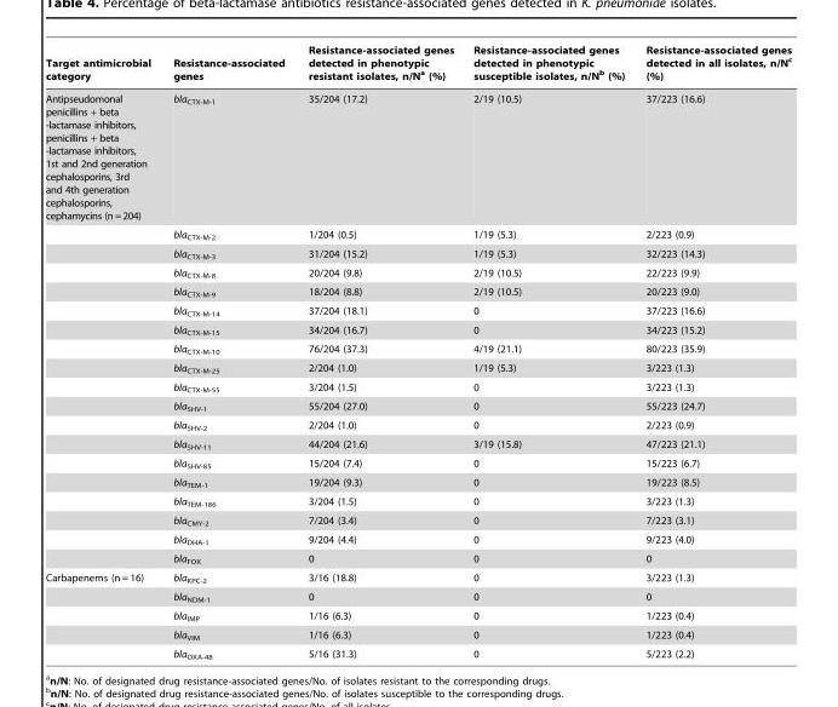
<table><thead><tr><td>Target antimicrobial category</td><td>Resistance-associated genes</td><td>Resistance-associated genes detected in phenotypic resistant isolates, n/N<sup>a</sup> (%)</td><td>Resistance-associated genes detected in phenotypic susceptible isolates, n/N<sup>b</sup> (%)</td><td>Resistance-associated genes detected in all isolates, n/N<sup>c</sup> (%)</td></tr></thead><tbody><tr><td rowspan="19">Antipseudomonal penicillins + beta -lactamase inhibitors, penicillins + beta -lactamase inhibitors, 1st and 2nd generation cephalosporins, 3rd and 4th generation cephalosporins, cephamycins (n=204)</td><td>bla<sub>CTX-M-1</sub></td><td>35/204 (17.2)</td><td>2/19 (10.5)</td><td>37/223 (16.6)</td></tr><tr><td>bla<sub>CTX-M-2</sub></td><td>1/204 (0.5)</td><td>1/19 (5.3)</td><td>2/223 (0.9)</td></tr><tr><td>bla<sub>CTX-M-3</sub></td><td>31/204 (15.2)</td><td>1/19 (5.3)</td><td>32/223 (14.3)</td></tr><tr><td>bla<sub>CTX-M-8</sub></td><td>20/204 (9.8)</td><td>2/19 (10.5)</td><td>22/223 (9.9)</td></tr><tr><td>bla<sub>CTX-M-9</sub></td><td>18/204 (8.8)</td><td>2/19 (10.5)</td><td>20/223 (9.0)</td></tr><tr><td>bla<sub>CTX-M-14</sub></td><td>37/204 (18.1)</td><td>0</td><td>37/223 (16.6)</td></tr><tr><td>bla<sub>CTX-M-15</sub></td><td>34/204 (16.7)</td><td>0</td><td>34/223 (15.2)</td></tr><tr><td>bla<sub>CTX-M-10</sub></td><td>76/204 (37.3)</td><td>4/19 (21.1)</td><td>80/223 (35.9)</td></tr><tr><td>bla<sub>CTX-M-25</sub></td><td>2/204 (1.0)</td><td>1/19 (5.3)</td><td>3/223 (1.3)</td></tr><tr><td>bla<sub>CTX-M-55</sub></td><td>3/204 (1.5)</td><td>0</td><td>3/223 (1.3)</td></tr><tr><td>bla<sub>SHV-1</sub></td><td>55/204 (27.0)</td><td>0</td><td>55/223 (24.7)</td></tr><tr><td>bla<sub>SHV-2</sub></td><td>2/204 (1.0)</td><td>0</td><td>2/223 (0.9)</td></tr><tr><td>bla<sub>SHV-11</sub></td><td>44/204 (21.6)</td><td>3/19 (15.8)</td><td>47/223 (21.1)</td></tr><tr><td>bla<sub>SHV-85</sub></td><td>15/204 (7.4)</td><td>0</td><td>15/223 (6.7)</td></tr><tr><td>bla<sub>TEM-1</sub></td><td>19/204 (9.3)</td><td>0</td><td>19/223 (8.5)</td></tr><tr><td>bla<sub>TEM-186</sub></td><td>3/204 (1.5)</td><td>0</td><td>3/223 (1.3)</td></tr><tr><td>bla<sub>CMY-2</sub></td><td>7/204 (3.4)</td><td>0</td><td>7/223 (3.1)</td></tr><tr><td>bla<sub>DHA-1</sub></td><td>9/204 (4.4)</td><td>0</td><td>9/223 (4.0)</td></tr><tr><td>bla<sub>FOX</sub></td><td>0</td><td>0</td><td>0</td></tr><tr><td rowspan="5">Carbapenems (n = 16)</td><td>bla<sub>KPC-2</sub></td><td>3/16 (18.8)</td><td>0</td><td>3/223 (1.3)</td></tr><tr><td>bla<sub>NDM-1</sub></td><td>0</td><td>0</td><td>0</td></tr><tr><td>bla<sub>IMP</sub></td><td>1/16 (6.3)</td><td>0</td><td>1/223 (0.4)</td></tr><tr><td>bla<sub>VIM</sub></td><td>1/16 (6.3)</td><td>0</td><td>1/223 (0.4)</td></tr><tr><td>bla<sub>OXA-48</sub></td><td>5/16 (31.3)</td><td>0</td><td>5/223 (2.2)</td></tr></tbody></table>